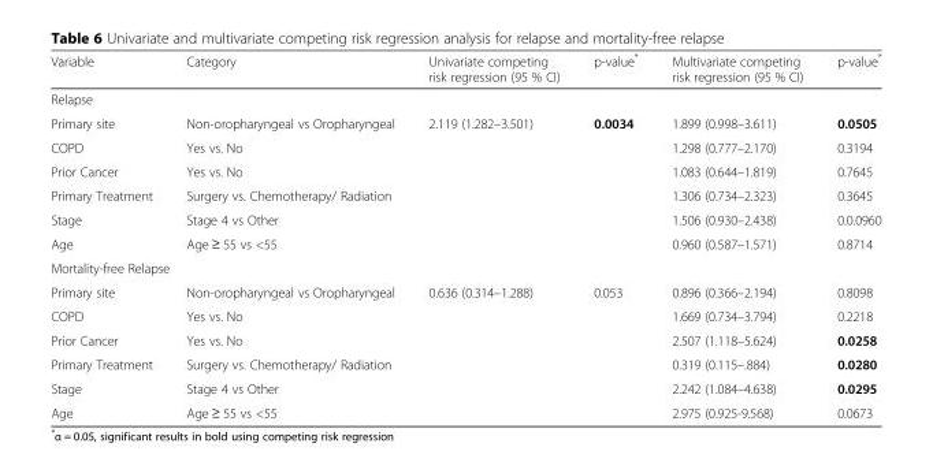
<table><thead><tr><td>Variable</td><td>Category</td><td>Univariate competing risk regression (95 % CI)</td><td>p-value*</td><td>Multivariate competing risk regression (95 % CI)</td><td>p-value*</td></tr></thead><tbody><tr><td colspan="6">Relapse</td></tr><tr><td>Primary site</td><td>Non-oropharyngeal vs Oropharyngeal</td><td>2.119 (1.282–3.501)</td><td>0.0034</td><td>1.899 (0.998–3.611)</td><td>0.0505</td></tr><tr><td>COPD</td><td>Yes vs. No</td><td></td><td></td><td>1.298 (0.777–2.170)</td><td>0.3194</td></tr><tr><td>Prior Cancer</td><td>Yes vs. No</td><td></td><td></td><td>1.083 (0.644–1.819)</td><td>0.7645</td></tr><tr><td>Primary Treatment</td><td>Surgery vs. Chemotherapy/ Radiation</td><td></td><td></td><td>1.306 (0.734–2.323)</td><td>0.3645</td></tr><tr><td>Stage</td><td>Stage 4 vs Other</td><td></td><td></td><td>1.506 (0.930–2.438)</td><td>0.0.0960</td></tr><tr><td>Age</td><td>Age ≥ 55 vs &lt;55</td><td></td><td></td><td>0.960 (0.587–1.571)</td><td>0.8714</td></tr><tr><td colspan="6">Mortality-free Relapse</td></tr><tr><td>Primary site</td><td>Non-oropharyngeal vs Oropharyngeal</td><td>0.636 (0.314–1.288)</td><td>0.053</td><td>0.896 (0.366–2.194)</td><td>0.8098</td></tr><tr><td>COPD</td><td>Yes vs. No</td><td></td><td></td><td>1.669 (0.734–3.794)</td><td>0.2218</td></tr><tr><td>Prior Cancer</td><td>Yes vs. No</td><td></td><td></td><td>2.507 (1.118–5.624)</td><td>0.0258</td></tr><tr><td>Primary Treatment</td><td>Surgery vs. Chemotherapy/ Radiation</td><td></td><td></td><td>0.319 (0.115–.884)</td><td>0.0280</td></tr><tr><td>Stage</td><td>Stage 4 vs Other</td><td></td><td></td><td>2.242 (1.084–4.638)</td><td>0.0295</td></tr><tr><td>Age</td><td>Age ≥ 55 vs &lt;55</td><td></td><td></td><td>2.975 (0.925-9.568)</td><td>0.0673</td></tr></tbody></table>